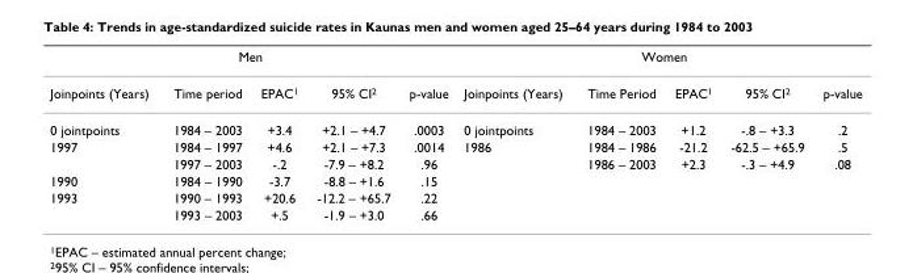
<table><thead><tr><td colspan="5">Men</td><td colspan="5">Women</td></tr><tr><td>Joinpoints (Years)</td><td>Time period</td><td>EPAC1</td><td>95% CI2</td><td>p-value</td><td>Joinpoints (Years)</td><td>Time Period</td><td>EPAC1</td><td>95% CI2</td><td>p-value</td></tr></thead><tbody><tr><td>0 jointpoints</td><td>1984 – 2003</td><td>+3.4</td><td>+2.1 – +4.7</td><td>.0003</td><td>0 jointpoints</td><td>1984 – 2003</td><td>+1.2</td><td>-.8 – +3.3</td><td>.2</td></tr><tr><td rowspan="2">1997</td><td>1984 – 1997</td><td>+4.6</td><td>+2.1 – +7.3</td><td>.0014</td><td>1986</td><td>1984 – 1986</td><td>-21.2</td><td>-62.5 – +65.9</td><td>.5</td></tr><tr><td>1997 – 2003</td><td>-.2</td><td>-7.9 – +8.2</td><td>.96</td><td></td><td>1986 – 2003</td><td>+2.3</td><td>-.3 – +4.9</td><td>.08</td></tr><tr><td>1990</td><td>1984 – 1990</td><td>-3.7</td><td>-8.8 – +1.6</td><td>.15</td><td></td><td></td><td></td><td></td><td></td></tr><tr><td rowspan="2">1993</td><td>1990 – 1993</td><td>+20.6</td><td>-12.2 – +65.7</td><td>.22</td><td></td><td></td><td></td><td></td><td></td></tr><tr><td>1993 – 2003</td><td>+.5</td><td>-1.9 – +3.0</td><td>.66</td><td></td><td></td><td></td><td></td><td></td></tr></tbody></table>